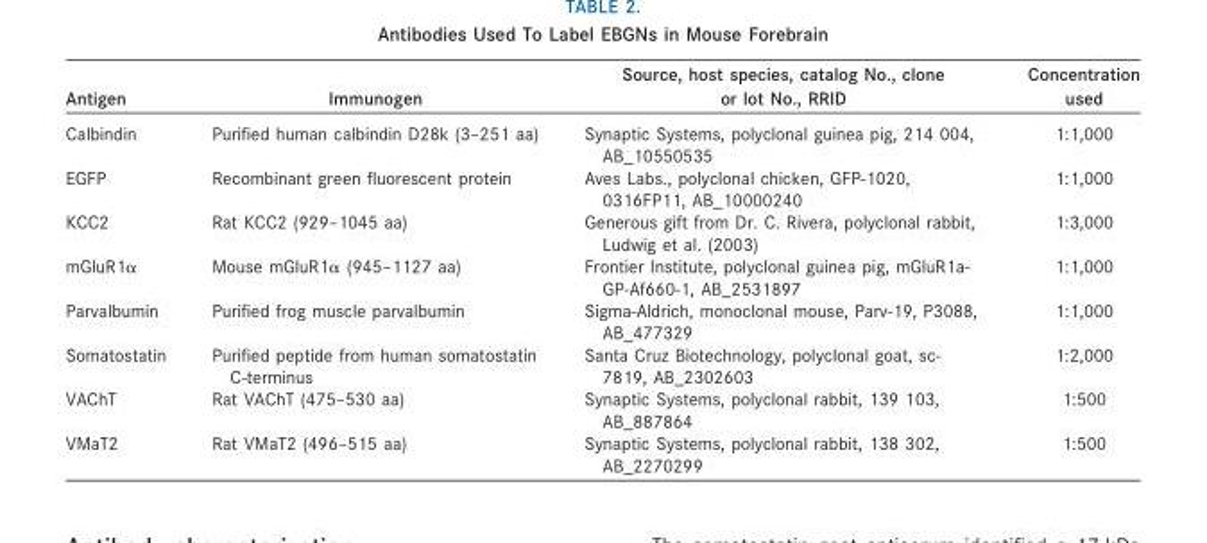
<table><thead><tr><td>Antigen</td><td>Immunogen</td><td>Source, host species, catalog No., clone or lot No., RRID</td><td>Concentration used</td></tr></thead><tbody><tr><td>Calbindin</td><td>Purified human calbindin D28k (3–251 aa)</td><td>Synaptic Systems, polyclonal guinea pig, 214 004, AB_10550535</td><td>1:1,000</td></tr><tr><td>EGFP</td><td>Recombinant green fluorescent protein</td><td>Aves Labs., polyclonal chicken, GFP-1020, 0316FP11, AB_10000240</td><td>1:1,000</td></tr><tr><td>KCC2</td><td>Rat KCC2 (929–1045 aa)</td><td>Generous gift from Dr. C. Rivera, polyclonal rabbit, Ludwig et al. (2003)</td><td>1:3,000</td></tr><tr><td>mGluR1α</td><td>Mouse mGluR1α (945–1127 aa)</td><td>Frontier Institute, polyclonal guinea pig, mGluR1a- GP-Af660-1, AB_2531897</td><td>1:1,000</td></tr><tr><td>Parvalbumin</td><td>Purified frog muscle parvalbumin</td><td>Sigma-Aldrich, monoclonal mouse, Parv-19, P3088, AB_477329</td><td>1:1,000</td></tr><tr><td>Somatostatin</td><td>Purified peptide from human somatostatin C-terminus</td><td>Santa Cruz Biotechnology, polyclonal goat, sc- 7819, AB_2302603</td><td>1:2,000</td></tr><tr><td>VAChT</td><td>Rat VAChT (475–530 aa)</td><td>Synaptic Systems, polyclonal rabbit, 139 103, AB_887864</td><td>1:500</td></tr><tr><td>VMaT2</td><td>Rat VMaT2 (496–515 aa)</td><td>Synaptic Systems, polyclonal rabbit, 138 302, AB_2270299</td><td>1:500</td></tr></tbody></table>